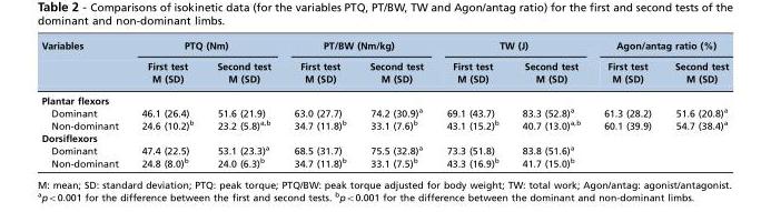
<table><thead><tr><td rowspan="2">Variables</td><td colspan="2">PTQ (Nm)</td><td colspan="2">PT/BW (Nm/kg)</td><td colspan="2">TW (J)</td><td colspan="2">Agon/antag ratio (%)</td></tr><tr><td>First test M (SD)</td><td>Second test M (SD)</td><td>First test M (SD)</td><td>Second test M (SD)</td><td>First test M (SD)</td><td>Second test M (SD)</td><td>First test M (SD)</td><td>Second test M (SD)</td></tr></thead><tbody><tr><td colspan="9">Plantar flexors</td></tr><tr><td>Dominant</td><td>46.1 (26.4)</td><td>51.6 (21.9)</td><td>63.0 (27.7)</td><td>74.2 (30.9)<sup>a</sup></td><td>69.1 (43.7)</td><td>83.3 (52.8)<sup>a</sup></td><td>61.3 (28.2)</td><td>51.6 (20.8)<sup>a</sup></td></tr><tr><td>Non-dominant</td><td>24.6 (10.2)<sup>b</sup></td><td>23.2 (5.8)<sup>a</sup>,<sup>b</sup></td><td>34.7 (11.8)<sup>b</sup></td><td>33.1 (7.6)<sup>b</sup></td><td>43.1 (15.2)<sup>b</sup></td><td>40.7 (13.0)<sup>a</sup>,<sup>b</sup></td><td>60.1 (39.9)</td><td>54.7 (38.4)<sup>a</sup></td></tr><tr><td colspan="9">Dorsiflexors</td></tr><tr><td>Dominant</td><td>47.4 (22.5)</td><td>53.1 (23.3)<sup>a</sup></td><td>68.5 (31.7)</td><td>75.5 (32.8)<sup>a</sup></td><td>73.3 (51.8)</td><td>83.8 (51.6)<sup>a</sup></td><td></td><td></td></tr><tr><td>Non-dominant</td><td>24.8 (8.0)<sup>b</sup></td><td>24.0 (6.3)<sup>b</sup></td><td>34.7 (11.8)<sup>b</sup></td><td>33.1 (7.5)<sup>b</sup></td><td>43.3 (16.9)<sup>b</sup></td><td>41.7 (15.0)<sup>b</sup></td><td></td><td></td></tr></tbody></table>